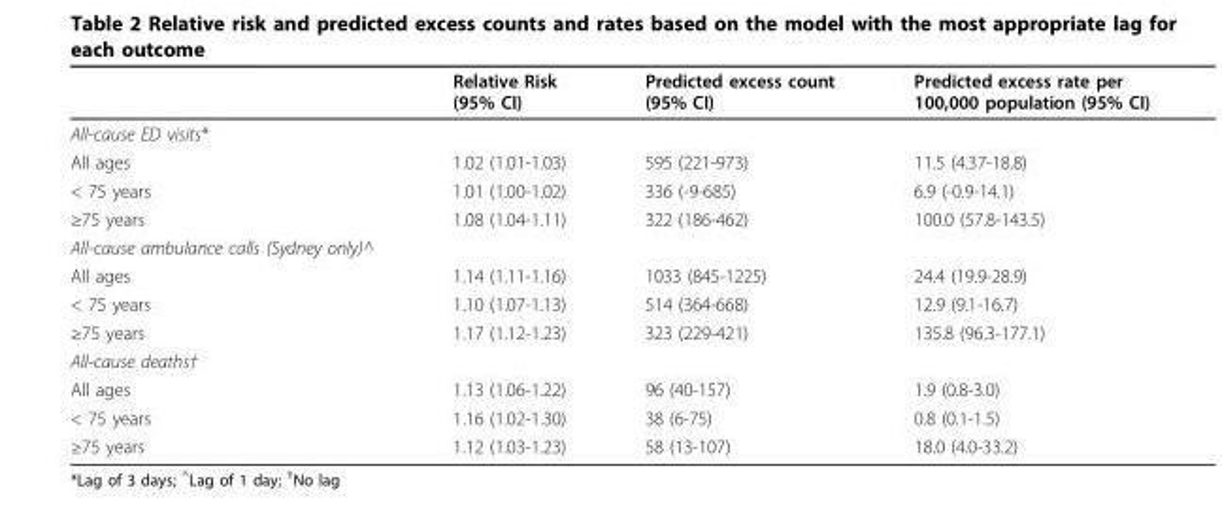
<table><thead><tr><td></td><td>Relative Risk (95% CI)</td><td>Predicted excess count (95% CI)</td><td>Predicted excess rate per 100,000 population (95% CI)</td></tr></thead><tbody><tr><td colspan="4">All-cause ED visits*</td></tr><tr><td>All ages</td><td>1.02 (1.01-1.03)</td><td>595 (221-973)</td><td>11.5 (4.37-18.8)</td></tr><tr><td>&lt; 75 years</td><td>1.01 (1.00-1.02)</td><td>336 (-9-685)</td><td>6.9 (-0.9-14.1)</td></tr><tr><td>≥75 years</td><td>1.08 (1.04-1.11)</td><td>322 (186-462)</td><td>100.0 (57.8-143.5)</td></tr><tr><td colspan="4">All-cause ambulance calls (Sydney only)^</td></tr><tr><td>All ages</td><td>1.14 (1.11-1.16)</td><td>1033 (845-1225)</td><td>24.4 (19.9-28.9)</td></tr><tr><td>&lt; 75 years</td><td>1.10 (1.07-1.13)</td><td>514 (364-668)</td><td>12.9 (9.1-16.7)</td></tr><tr><td>≥75 years</td><td>1.17 (1.12-1.23)</td><td>323 (229-421)</td><td>135.8 (96.3-177.1)</td></tr><tr><td colspan="4">All-cause deaths†</td></tr><tr><td>All ages</td><td>1.13 (1.06-1.22)</td><td>96 (40-157)</td><td>1.9 (0.8-3.0)</td></tr><tr><td>&lt; 75 years</td><td>1.16 (1.02-1.30)</td><td>38 (6-75)</td><td>0.8 (0.1-1.5)</td></tr><tr><td>≥75 years</td><td>1.12 (1.03-1.23)</td><td>58 (13-107)</td><td>18.0 (4.0-33.2)</td></tr></tbody></table>